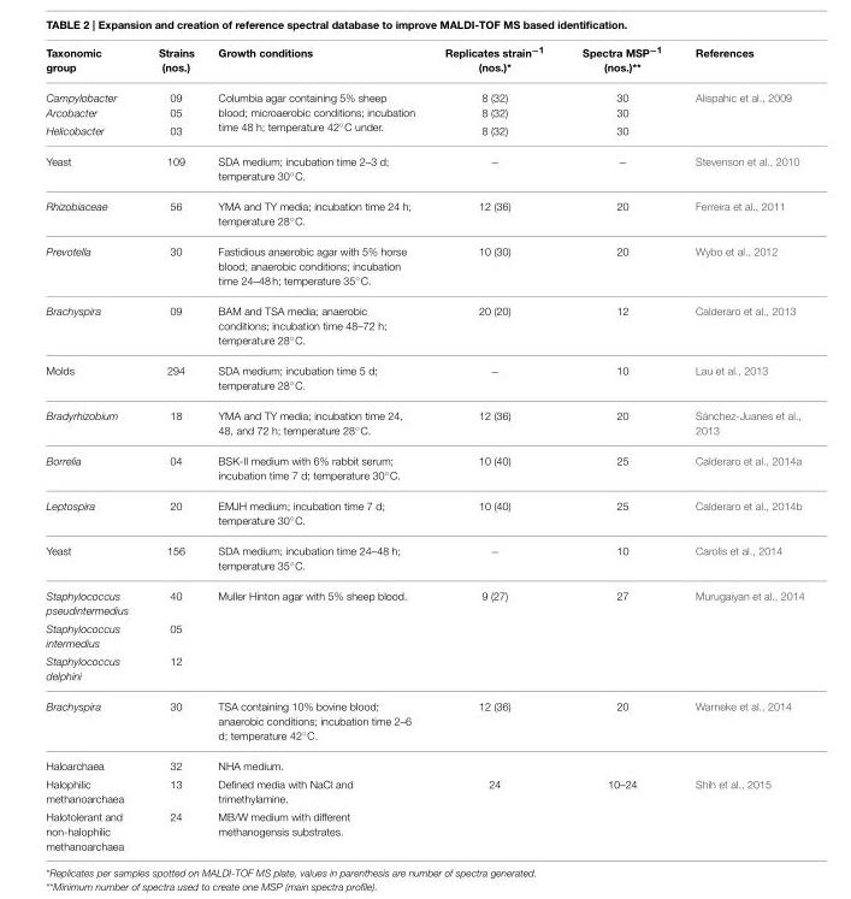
<table><thead><tr><td>Taxonomic group</td><td>Strains (nos.)</td><td>Growth conditions</td><td>Replicates strain<sup>−1</sup> (nos.)*</td><td>Spectra MSP<sup>−1</sup> (nos.)**</td><td>References</td></tr></thead><tbody><tr><td>Campylobacter</td><td>09</td><td rowspan="3">Columbia agar containing 5% sheep blood; microaerobic conditions; incubation time 48 h; temperature 42◦C under.</td><td>8 (32)</td><td>30</td><td>Alispahic et al., 2009</td></tr><tr><td>Arcobacter</td><td>05</td><td>8 (32)</td><td>30</td><td></td></tr><tr><td>Helicobacter</td><td>03</td><td>8 (32)</td><td>30</td><td></td></tr><tr><td>Yeast</td><td>109</td><td>SDA medium; incubation time 2–3 d; temperature 30◦C.</td><td>−</td><td>−</td><td>Stevenson et al., 2010</td></tr><tr><td>Rhizobiaceae</td><td>56</td><td>YMA and TY media; incubation time 24 h; temperature 28◦C.</td><td>12 (36)</td><td>20</td><td>Ferreira et al., 2011</td></tr><tr><td>Prevotella</td><td>30</td><td>Fastidious anaerobic agar with 5% horse blood; anaerobic conditions; incubation time 24–48 h; temperature 35◦C.</td><td>10 (30)</td><td>20</td><td>Wybo et al., 2012</td></tr><tr><td>Brachyspira</td><td>09</td><td>BAM and TSA media; anaerobic conditions; incubation time 48–72 h; temperature 28◦C.</td><td>20 (20)</td><td>12</td><td>Calderaro et al., 2013</td></tr><tr><td>Molds</td><td>294</td><td>SDA medium; incubation time 5 d; temperature 28◦C.</td><td>−</td><td>10</td><td>Lau et al., 2013</td></tr><tr><td>Bradyrhizobium</td><td>18</td><td>YMA and TY media; incubation time 24, 48, and 72 h; temperature 28◦C.</td><td>12 (36)</td><td>20</td><td>Sánchez-Juanes et al., 2013</td></tr><tr><td>Borrelia</td><td>04</td><td>BSK-II medium with 6% rabbit serum; incubation time 7 d; temperature 30◦C.</td><td>10 (40)</td><td>25</td><td>Calderaro et al., 2014a</td></tr><tr><td>Leptospira</td><td>20</td><td>EMJH medium; incubation time 7 d; temperature 30◦C.</td><td>10 (40)</td><td>25</td><td>Calderaro et al., 2014b</td></tr><tr><td>Yeast</td><td>156</td><td>SDA medium; incubation time 24–48 h; temperature 35◦C.</td><td>−</td><td>10</td><td>Carolis et al., 2014</td></tr><tr><td>Staphylococcus pseudintermedius</td><td>40</td><td>Muller Hinton agar with 5% sheep blood.</td><td>9 (27)</td><td>27</td><td>Murugaiyan et al., 2014</td></tr><tr><td>Staphylococcus intermedius</td><td>05</td><td></td><td></td><td></td><td></td></tr><tr><td>Staphylococcus delphini</td><td>12</td><td></td><td></td><td></td><td></td></tr><tr><td>Brachyspira</td><td>30</td><td>TSA containing 10% bovine blood; anaerobic conditions; incubation time 2–6 d; temperature 42◦C.</td><td>12 (36)</td><td>20</td><td>Warneke et al., 2014</td></tr><tr><td>Haloarchaea</td><td>32</td><td>NHA medium.</td><td></td><td></td><td></td></tr><tr><td>Halophilic methanoarchaea</td><td>13</td><td>Defined media with NaCl and trimethylamine.</td><td>24</td><td>10–24</td><td>Shih et al., 2015</td></tr><tr><td>Halotolerant and non-halophilic methanoarchaea</td><td>24</td><td>MB/W medium with different methanogensis substrates.</td><td></td><td></td><td></td></tr></tbody></table>